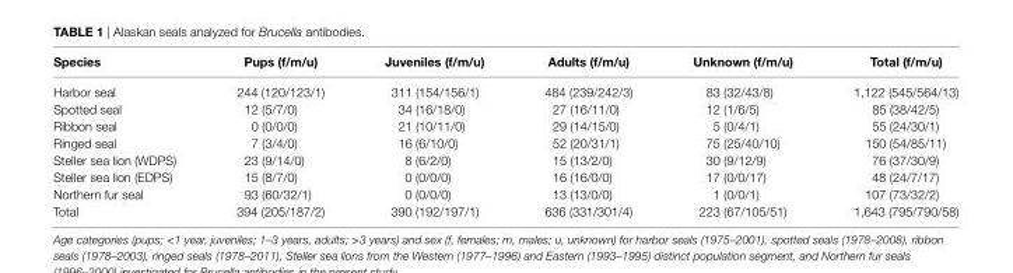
<table><thead><tr><td>species</td><td>Pups (f/m/u)</td><td>Juveniles (f/m/u)</td><td>adults (f/m/u)</td><td>Unknown (f/m/u)</td><td>Total (f/m/u)</td></tr></thead><tbody><tr><td>Harbor seal</td><td>244 (120/123/1)</td><td>311 (154/156/1)</td><td>484 (239/242/3)</td><td>83 (32/43/8)</td><td>1,122 (545/564/13)</td></tr><tr><td>Spotted seal</td><td>12 (5/7/0)</td><td>34 (16/18/0)</td><td>27 (16/11/0)</td><td>12 (1/6/5)</td><td>85 (38/42/5)</td></tr><tr><td>Ribbon seal</td><td>0 (0/0/0)</td><td>21 (10/11/0)</td><td>29 (14/15/0)</td><td>5 (0/4/1)</td><td>55 (24/30/1)</td></tr><tr><td>Ringed seal</td><td>7 (3/4/0)</td><td>16 (6/10/0)</td><td>52 (20/31/1)</td><td>75 (25/40/10)</td><td>150 (54/85/11)</td></tr><tr><td>Steller sea lion (WDPS)</td><td>23 (9/14/0)</td><td>8 (6/2/0)</td><td>15 (13/2/0)</td><td>30 (9/12/9)</td><td>76 (37/30/9)</td></tr><tr><td>Steller sea lion (EDPS)</td><td>15 (8/7/0)</td><td>0 (0/0/0)</td><td>16 (16/0/0)</td><td>17 (0/0/17)</td><td>48 (24/7/17)</td></tr><tr><td>Northern fur seal</td><td>93 (60/32/1)</td><td>0 (0/0/0)</td><td>13 (13/0/0)</td><td>1 (0/0/1)</td><td>107 (73/32/2)</td></tr><tr><td>Total</td><td>394 (205/187/2)</td><td>390 (192/197/1)</td><td>636 (331/301/4)</td><td>223 (67/105/51)</td><td>1,643 (795/790/58)</td></tr></tbody></table>